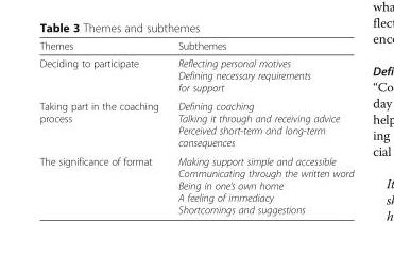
<table><thead><tr><td>Themes</td><td>Subthemes</td></tr></thead><tbody><tr><td>Deciding to participate</td><td>Reflecting personal motives Defining necessary requirements for support</td></tr><tr><td>Taking part in the coaching process</td><td>Defining coaching Talking it through and receiving advice Perceived short-term and long-term consequences</td></tr><tr><td>The significance of format</td><td>Making support simple and accessible Communicating through the written word Being in one’s own home A feeling of immediacy Shortcomings and suggestions</td></tr></tbody></table>